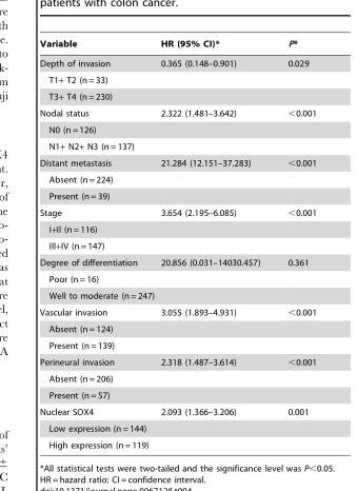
<table><thead><tr><td>Variable</td><td>HR (95% CI)*</td><td>P*</td></tr></thead><tbody><tr><td>Depth of invasion</td><td>0.365 (0.148–0.901)</td><td>0.029</td></tr><tr><td colspan="3">T1+ T2 (n = 33)</td></tr><tr><td colspan="3">T3+ T4 (n = 230)</td></tr><tr><td>Nodal status</td><td>2.322 (1.481–3.642)</td><td>&lt;0.001</td></tr><tr><td colspan="3">N0 (n = 126)</td></tr><tr><td colspan="3">N1+ N2+ N3 (n = 137)</td></tr><tr><td>Distant metastasis</td><td>21.284 (12.151–37.283)</td><td>&lt;0.001</td></tr><tr><td colspan="3">Absent (n = 224)</td></tr><tr><td colspan="3">Present (n = 39)</td></tr><tr><td>Stage</td><td>3.654 (2.195–6.085)</td><td>&lt;0.001</td></tr><tr><td colspan="3">I+II (n = 116)</td></tr><tr><td colspan="3">III+IV (n = 147)</td></tr><tr><td>Degree of differentiation</td><td>20.856 (0.031–14030.457)</td><td>0.361</td></tr><tr><td colspan="3">Poor (n = 16)</td></tr><tr><td colspan="3">Well to moderate (n = 247)</td></tr><tr><td>Vascular invasion</td><td>3.055 (1.893–4.931)</td><td>&lt;0.001</td></tr><tr><td colspan="3">Absent (n = 124)</td></tr><tr><td colspan="3">Present (n = 139)</td></tr><tr><td>Perineural invasion</td><td>2.318 (1.487–3.614)</td><td>&lt;0.001</td></tr><tr><td colspan="3">Absent (n = 206)</td></tr><tr><td colspan="3">Present (n = 57)</td></tr><tr><td>Nuclear SOX4</td><td>2.093 (1.366–3.206)</td><td>0.001</td></tr><tr><td colspan="3">Low expression (n = 144)</td></tr><tr><td>High expression (n = 119)</td><td></td><td></td></tr></tbody></table>